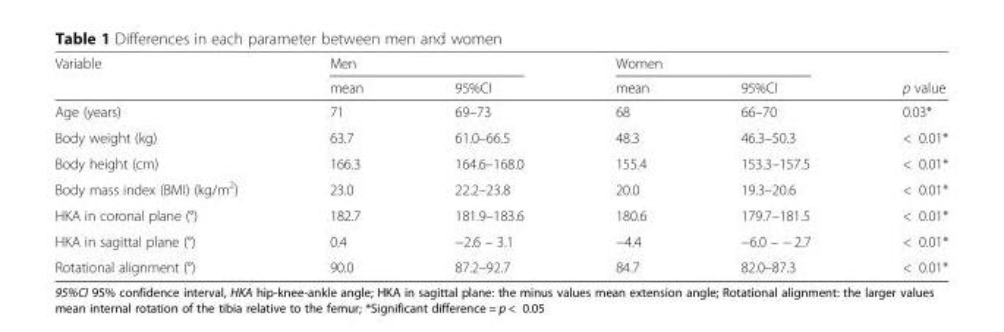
<table><thead><tr><td rowspan="2">Variable</td><td colspan="2">Men</td><td colspan="2">Women</td><td rowspan="2">p value</td></tr><tr><td>mean</td><td>95%CI</td><td>mean</td><td>95%CI</td></tr></thead><tbody><tr><td>Age (years)</td><td>71</td><td>69–73</td><td>68</td><td>66–70</td><td>0.03*</td></tr><tr><td>Body weight (kg)</td><td>63.7</td><td>61.0–66.5</td><td>48.3</td><td>46.3–50.3</td><td>&lt; 0.01*</td></tr><tr><td>Body height (cm)</td><td>166.3</td><td>164.6–168.0</td><td>155.4</td><td>153.3–157.5</td><td>&lt; 0.01*</td></tr><tr><td>Body mass index (BMI) (kg/m<sup>2</sup>)</td><td>23.0</td><td>22.2–23.8</td><td>20.0</td><td>19.3–20.6</td><td>&lt; 0.01*</td></tr><tr><td>HKA in coronal plane (°)</td><td>182.7</td><td>181.9–183.6</td><td>180.6</td><td>179.7–181.5</td><td>&lt; 0.01*</td></tr><tr><td>HKA in sagittal plane (°)</td><td>0.4</td><td>−2.6 – 3.1</td><td>−4.4</td><td>−6.0 – − 2.7</td><td>&lt; 0.01*</td></tr><tr><td>Rotational alignment (°)</td><td>90.0</td><td>87.2–92.7</td><td>84.7</td><td>82.0–87.3</td><td>&lt; 0.01*</td></tr></tbody></table>